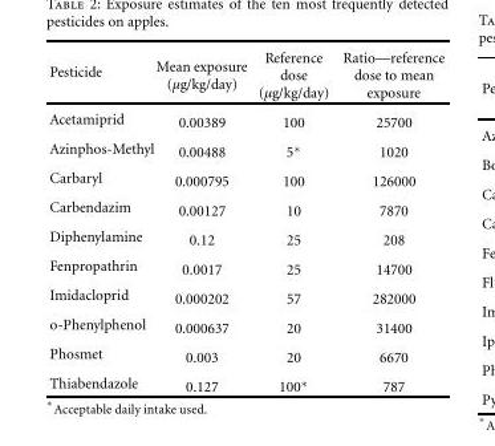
<table><thead><tr><td>Pesticide</td><td>Mean exposure (µg/kg/day)</td><td>Reference dose (µg/kg/day)</td><td>Ratio—reference dose to mean exposure</td></tr></thead><tbody><tr><td>Acetamiprid</td><td>0.00389</td><td>100</td><td>25700</td></tr><tr><td>Azinphos-Methyl</td><td>0.00488</td><td>5∗</td><td>1020</td></tr><tr><td>Carbaryl</td><td>0.000795</td><td>100</td><td>126000</td></tr><tr><td>Carbendazim</td><td>0.00127</td><td>10</td><td>7870</td></tr><tr><td>Diphenylamine</td><td>0.12</td><td>25</td><td>208</td></tr><tr><td>Fenpropathrin</td><td>0.0017</td><td>25</td><td>14700</td></tr><tr><td>Imidacloprid</td><td>0.000202</td><td>57</td><td>282000</td></tr><tr><td>o-Phenylphenol</td><td>0.000637</td><td>20</td><td>31400</td></tr><tr><td>Phosmet</td><td>0.003</td><td>20</td><td>6670</td></tr><tr><td>Thiabendazole</td><td>0.127</td><td>100∗</td><td>787</td></tr></tbody></table>